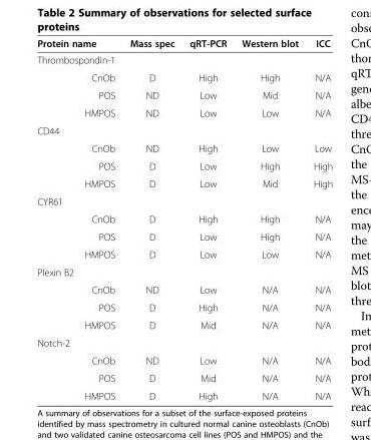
<table><thead><tr><td>Protein name</td><td>Mass spec</td><td>qRT-PCR</td><td>Western blot</td><td>ICC</td></tr></thead><tbody><tr><td colspan="5">Thrombospondin-1</td></tr><tr><td>CnOb</td><td>D</td><td>High</td><td>High</td><td>N/A</td></tr><tr><td>POS</td><td>ND</td><td>Low</td><td>Mid</td><td>N/A</td></tr><tr><td>HMPOS</td><td>ND</td><td>Low</td><td>Low</td><td>N/A</td></tr><tr><td colspan="5">CD44</td></tr><tr><td>CnOb</td><td>ND</td><td>High</td><td>Low</td><td>Low</td></tr><tr><td>POS</td><td>D</td><td>Low</td><td>High</td><td>High</td></tr><tr><td>HMPOS</td><td>D</td><td>Low</td><td>Mid</td><td>High</td></tr><tr><td colspan="5">CYR61</td></tr><tr><td>CnOb</td><td>D</td><td>High</td><td>High</td><td>N/A</td></tr><tr><td>POS</td><td>D</td><td>Low</td><td>High</td><td>N/A</td></tr><tr><td>HMPOS</td><td>D</td><td>Low</td><td>Low</td><td>N/A</td></tr><tr><td colspan="5">Plexin B2</td></tr><tr><td>CnOb</td><td>ND</td><td>Low</td><td>N/A</td><td>N/A</td></tr><tr><td>POS</td><td>D</td><td>High</td><td>N/A</td><td>N/A</td></tr><tr><td>HMPOS</td><td>D</td><td>Mid</td><td>N/A</td><td>N/A</td></tr><tr><td colspan="5">Notch-2</td></tr><tr><td>CnOb</td><td>ND</td><td>Low</td><td>N/A</td><td>N/A</td></tr><tr><td>POS</td><td>D</td><td>Mid</td><td>N/A</td><td>N/A</td></tr><tr><td>HMPOS</td><td>D</td><td>High</td><td>N/A</td><td>N/A</td></tr></tbody></table>